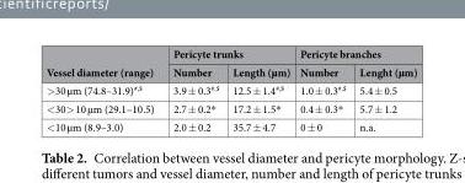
<table><thead><tr><td rowspan="2">Vessel diameter (range)</td><td colspan="2">Pericyte trunks</td><td colspan="2">Pericyte branches</td></tr><tr><td>Number</td><td>Length (µm)</td><td>Number</td><td>Lenght (µm)</td></tr></thead><tbody><tr><td>&gt;30 µm (74.8–31.9)<sup>#,$</sup></td><td>3.9 ± 0.3<sup>#,$</sup></td><td>12.5 ± 1.4<sup>#,$</sup></td><td>1.0 ± 0.3<sup>#,$</sup></td><td>5.4 ± 0.5</td></tr><tr><td>&lt;30&gt; 10 µm (29.1–10.5)</td><td>2.7 ± 0.2*</td><td>17.2 ± 1.5*</td><td>0.4 ± 0.3*</td><td>5.7 ± 1.2</td></tr><tr><td>&lt;10 µm (8.9–3.0)</td><td>2.0 ± 0.2</td><td>35.7 ± 4.7</td><td>0 ± 0</td><td>n.a.</td></tr></tbody></table>